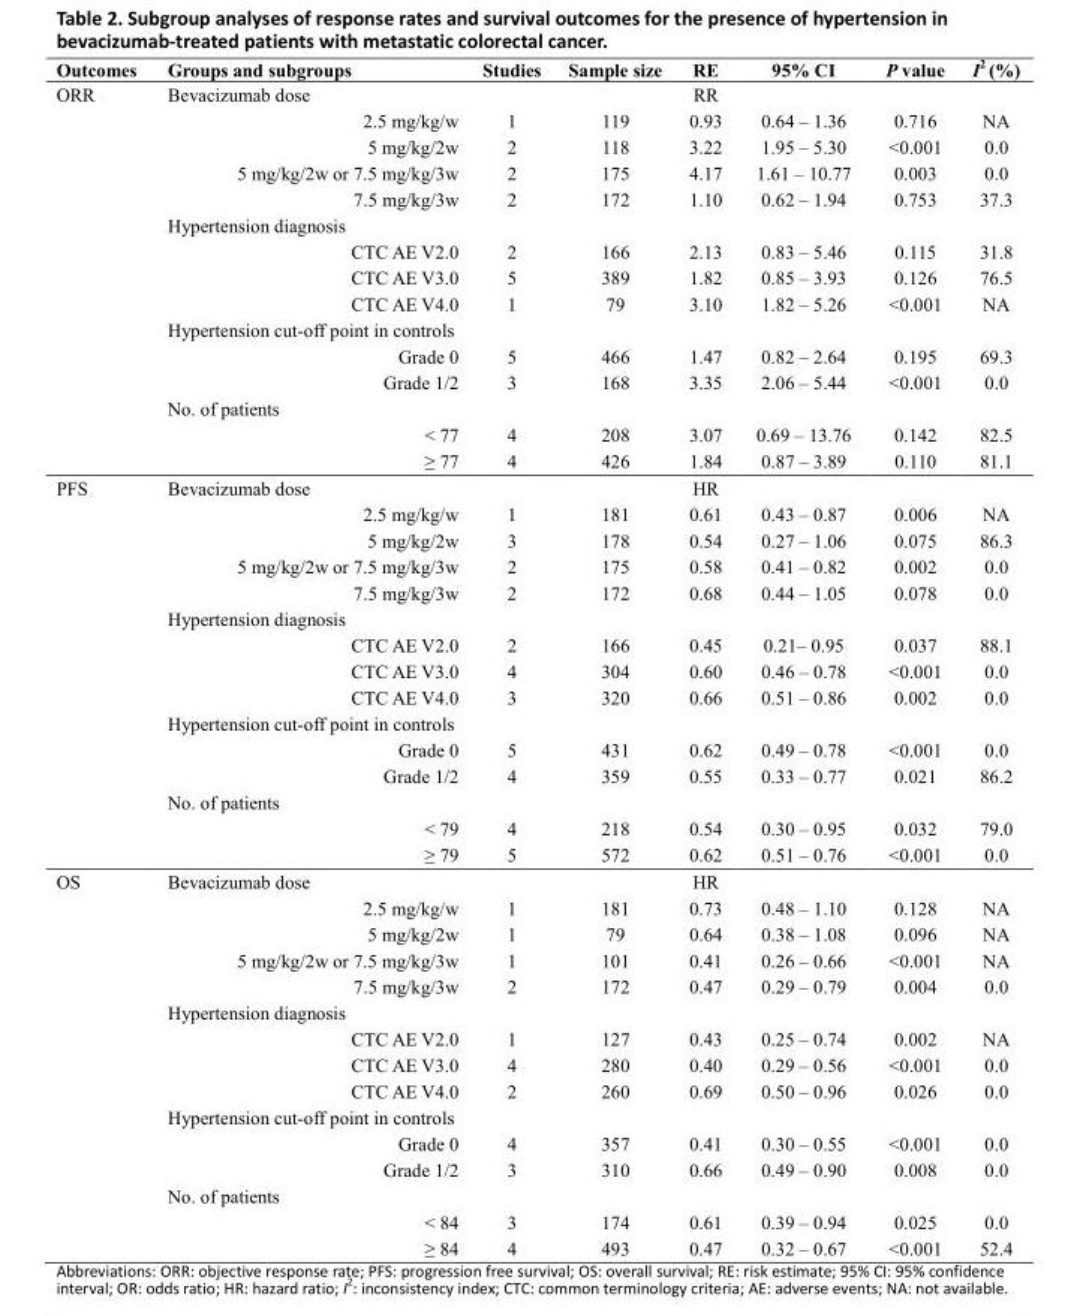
<table><tbody><tr><td>Outcomes</td><td>Groups and subgroups</td><td>Studies</td><td>Sample size</td><td>RE</td><td>95% CI</td><td>P value</td><td>I<sup>2</sup> (%)</td></tr><tr><td rowspan="15">ORR</td><td>Bevacizumab dose</td><td></td><td></td><td>RR</td><td></td><td></td><td></td></tr><tr><td>2.5 mg/kg/w</td><td>1</td><td>119</td><td>0.93</td><td>0.64 – 1.36</td><td>0.716</td><td>NA</td></tr><tr><td>5 mg/kg/2w</td><td>2</td><td>118</td><td>3.22</td><td>1.95 – 5.30</td><td>&lt;0.001</td><td>0.0</td></tr><tr><td>5 mg/kg/2w or 7.5 mg/kg/3w</td><td>2</td><td>175</td><td>4.17</td><td>1.61 – 10.77</td><td>0.003</td><td>0.0</td></tr><tr><td>7.5 mg/kg/3w</td><td>2</td><td>172</td><td>1.10</td><td>0.62 – 1.94</td><td>0.753</td><td>37.3</td></tr><tr><td>Hypertension diagnosis</td><td></td><td></td><td></td><td></td><td></td><td></td></tr><tr><td>CTC AE V2.0</td><td>2</td><td>166</td><td>2.13</td><td>0.83 – 5.46</td><td>0.115</td><td>31.8</td></tr><tr><td>CTC AE V3.0</td><td>5</td><td>389</td><td>1.82</td><td>0.85 – 3.93</td><td>0.126</td><td>76.5</td></tr><tr><td>CTC AE V4.0</td><td>1</td><td>79</td><td>3.10</td><td>1.82 – 5.26</td><td>&lt;0.001</td><td>NA</td></tr><tr><td>Hypertension cut-off point in controls</td><td></td><td></td><td></td><td></td><td></td><td></td></tr><tr><td>Grade 0</td><td>5</td><td>466</td><td>1.47</td><td>0.82 – 2.64</td><td>0.195</td><td>69.3</td></tr><tr><td>Grade 1/2</td><td>3</td><td>168</td><td>3.35</td><td>2.06 – 5.44</td><td>&lt;0.001</td><td>0.0</td></tr><tr><td>No. of patients</td><td></td><td></td><td></td><td></td><td></td><td></td></tr><tr><td>&lt; 77</td><td>4</td><td>208</td><td>3.07</td><td>0.69 – 13.76</td><td>0.142</td><td>82.5</td></tr><tr><td>≥ 77</td><td>4</td><td>426</td><td>1.84</td><td>0.87 – 3.89</td><td>0.110</td><td>81.1</td></tr><tr><td rowspan="15">PFS</td><td>Bevacizumab dose</td><td></td><td></td><td>HR</td><td></td><td></td><td></td></tr><tr><td>2.5 mg/kg/w</td><td>1</td><td>181</td><td>0.61</td><td>0.43 – 0.87</td><td>0.006</td><td>NA</td></tr><tr><td>5 mg/kg/2w</td><td>3</td><td>178</td><td>0.54</td><td>0.27 – 1.06</td><td>0.075</td><td>86.3</td></tr><tr><td>5 mg/kg/2w or 7.5 mg/kg/3w</td><td>2</td><td>175</td><td>0.58</td><td>0.41 – 0.82</td><td>0.002</td><td>0.0</td></tr><tr><td>7.5 mg/kg/3w</td><td>2</td><td>172</td><td>0.68</td><td>0.44 – 1.05</td><td>0.078</td><td>0.0</td></tr><tr><td>Hypertension diagnosis</td><td></td><td></td><td></td><td></td><td></td><td></td></tr><tr><td>CTC AE V2.0</td><td>2</td><td>166</td><td>0.45</td><td>0.21– 0.95</td><td>0.037</td><td>88.1</td></tr><tr><td>CTC AE V3.0</td><td>4</td><td>304</td><td>0.60</td><td>0.46 – 0.78</td><td>&lt;0.001</td><td>0.0</td></tr><tr><td>CTC AE V4.0</td><td>3</td><td>320</td><td>0.66</td><td>0.51 – 0.86</td><td>0.002</td><td>0.0</td></tr><tr><td>Hypertension cut-off point in controls</td><td></td><td></td><td></td><td></td><td></td><td></td></tr><tr><td>Grade 0</td><td>5</td><td>431</td><td>0.62</td><td>0.49 – 0.78</td><td>&lt;0.001</td><td>0.0</td></tr><tr><td>Grade 1/2</td><td>4</td><td>359</td><td>0.55</td><td>0.33 – 0.77</td><td>0.021</td><td>86.2</td></tr><tr><td>No. of patients</td><td></td><td></td><td></td><td></td><td></td><td></td></tr><tr><td>&lt; 79</td><td>4</td><td>218</td><td>0.54</td><td>0.30 – 0.95</td><td>0.032</td><td>79.0</td></tr><tr><td>≥ 79</td><td>5</td><td>572</td><td>0.62</td><td>0.51 – 0.76</td><td>&lt;0.001</td><td>0.0</td></tr><tr><td rowspan="15">OS</td><td>Bevacizumab dose</td><td></td><td></td><td>HR</td><td></td><td></td><td></td></tr><tr><td>2.5 mg/kg/w</td><td>1</td><td>181</td><td>0.73</td><td>0.48 – 1.10</td><td>0.128</td><td>NA</td></tr><tr><td>5 mg/kg/2w</td><td>1</td><td>79</td><td>0.64</td><td>0.38 – 1.08</td><td>0.096</td><td>NA</td></tr><tr><td>5 mg/kg/2w or 7.5 mg/kg/3w</td><td>1</td><td>101</td><td>0.41</td><td>0.26 – 0.66</td><td>&lt;0.001</td><td>NA</td></tr><tr><td>7.5 mg/kg/3w</td><td>2</td><td>172</td><td>0.47</td><td>0.29 – 0.79</td><td>0.004</td><td>0.0</td></tr><tr><td>Hypertension diagnosis</td><td></td><td></td><td></td><td></td><td></td><td></td></tr><tr><td>CTC AE V2.0</td><td>1</td><td>127</td><td>0.43</td><td>0.25 – 0.74</td><td>0.002</td><td>NA</td></tr><tr><td>CTC AE V3.0</td><td>4</td><td>280</td><td>0.40</td><td>0.29 – 0.56</td><td>&lt;0.001</td><td>0.0</td></tr><tr><td>CTC AE V4.0</td><td>2</td><td>260</td><td>0.69</td><td>0.50 – 0.96</td><td>0.026</td><td>0.0</td></tr><tr><td>Hypertension cut-off point in controls</td><td></td><td></td><td></td><td></td><td></td><td></td></tr><tr><td>Grade 0</td><td>4</td><td>357</td><td>0.41</td><td>0.30 – 0.55</td><td>&lt;0.001</td><td>0.0</td></tr><tr><td>Grade 1/2</td><td>3</td><td>310</td><td>0.66</td><td>0.49 – 0.90</td><td>0.008</td><td>0.0</td></tr><tr><td>No. of patients</td><td></td><td></td><td></td><td></td><td></td><td></td></tr><tr><td>&lt; 84</td><td>3</td><td>174</td><td>0.61</td><td>0.39 – 0.94</td><td>0.025</td><td>0.0</td></tr><tr><td>≥ 84</td><td>4</td><td>493</td><td>0.47</td><td>0.32 – 0.67</td><td>&lt;0.001</td><td>52.4</td></tr></tbody></table>